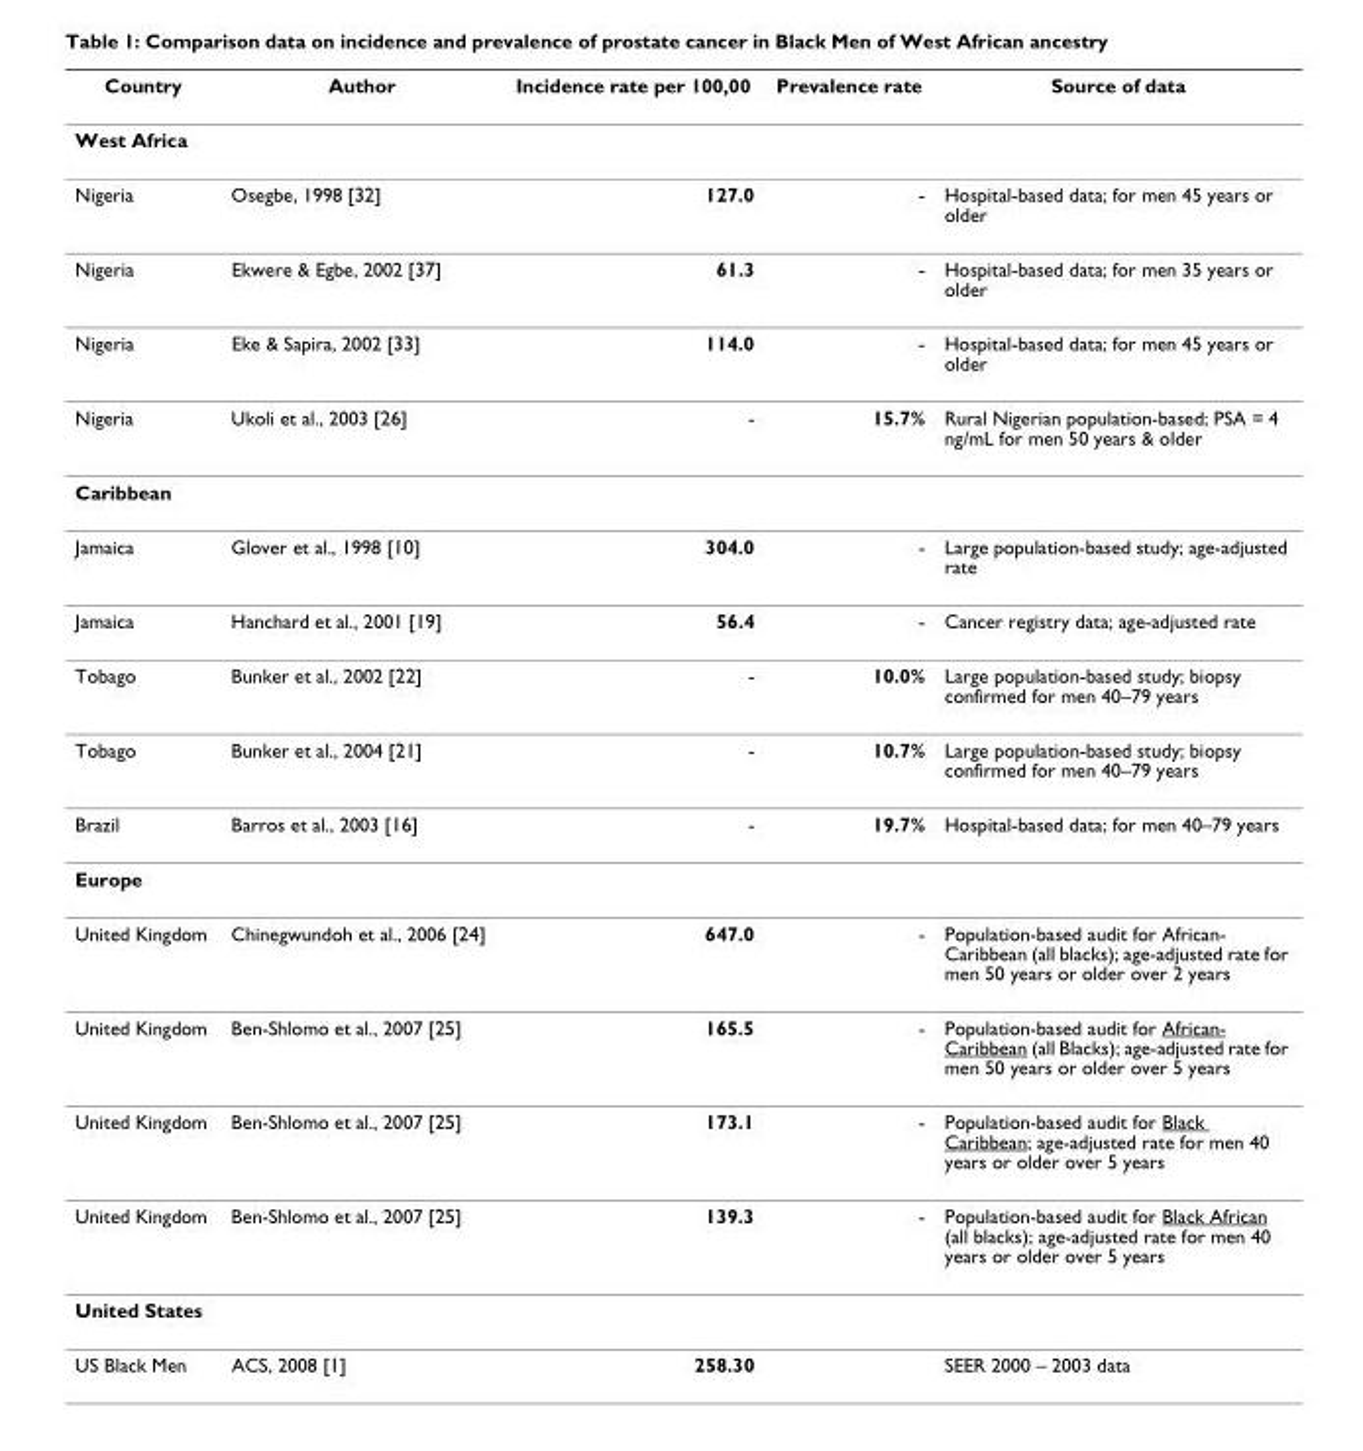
<table><thead><tr><td>Country</td><td>Author</td><td>Incidence rate per 100,00</td><td>Prevalence rate</td><td>Source of data</td></tr></thead><tbody><tr><td colspan="5">West Africa</td></tr><tr><td>Nigeria</td><td>Osegbe, 1998 [32]</td><td>127.0</td><td>-</td><td>Hospital-based data; for men 45 years or older</td></tr><tr><td>Nigeria</td><td>Ekwere &amp; Egbe, 2002 [37]</td><td>61.3</td><td>-</td><td>Hospital-based data; for men 35 years or older</td></tr><tr><td>Nigeria</td><td>Eke &amp; Sapira, 2002 [33]</td><td>114.0</td><td>-</td><td>Hospital-based data; for men 45 years or older</td></tr><tr><td>Nigeria</td><td>Ukoli et al., 2003 [26]</td><td>-</td><td>15.7%</td><td>Rural Nigerian population-based; PSA = 4 ng/mL for men 50 years &amp; older</td></tr><tr><td colspan="5">Caribbean</td></tr><tr><td>Jamaica</td><td>Glover et al., 1998 [10]</td><td>304.0</td><td>-</td><td>Large population-based study; age-adjusted rate</td></tr><tr><td>Jamaica</td><td>Hanchard et al., 2001 [19]</td><td>56.4</td><td>-</td><td>Cancer registry data; age-adjusted rate</td></tr><tr><td>Tobago</td><td>Bunker et al., 2002 [22]</td><td>-</td><td>10.0%</td><td>Large population-based study; biopsy confirmed for men 40–79 years</td></tr><tr><td>Tobago</td><td>Bunker et al., 2004 [21]</td><td>-</td><td>10.7%</td><td>Large population-based study; biopsy confirmed for men 40–79 years</td></tr><tr><td>Brazil</td><td>Barros et al., 2003 [16]</td><td>-</td><td>19.7%</td><td>Hospital-based data; for men 40–79 years</td></tr><tr><td colspan="5">Europe</td></tr><tr><td>United Kingdom</td><td>Chinegwundoh et al., 2006 [24]</td><td>647.0</td><td>-</td><td>Population-based audit for African- Caribbean (all blacks); age-adjusted rate for men 50 years or older over 2 years</td></tr><tr><td>United Kingdom</td><td>Ben-Shlomo et al., 2007 [25]</td><td>165.5</td><td>-</td><td>Population-based audit for African- Caribbean (all Blacks); age-adjusted rate for men 50 years or older over 5 years</td></tr><tr><td>United Kingdom</td><td>Ben-Shlomo et al., 2007 [25]</td><td>173.1</td><td>-</td><td>Population-based audit for Black Caribbean; age-adjusted rate for men 40 years or older over 5 years</td></tr><tr><td>United Kingdom</td><td>Ben-Shlomo et al., 2007 [25]</td><td>139.3</td><td>-</td><td>Population-based audit for Black African (all blacks); age-adjusted rate for men 40 years or older over 5 years</td></tr><tr><td colspan="5">United States</td></tr><tr><td>US Black Men</td><td>ACS, 2008 [1]</td><td>258.30</td><td></td><td>SEER 2000 – 2003 data</td></tr></tbody></table>